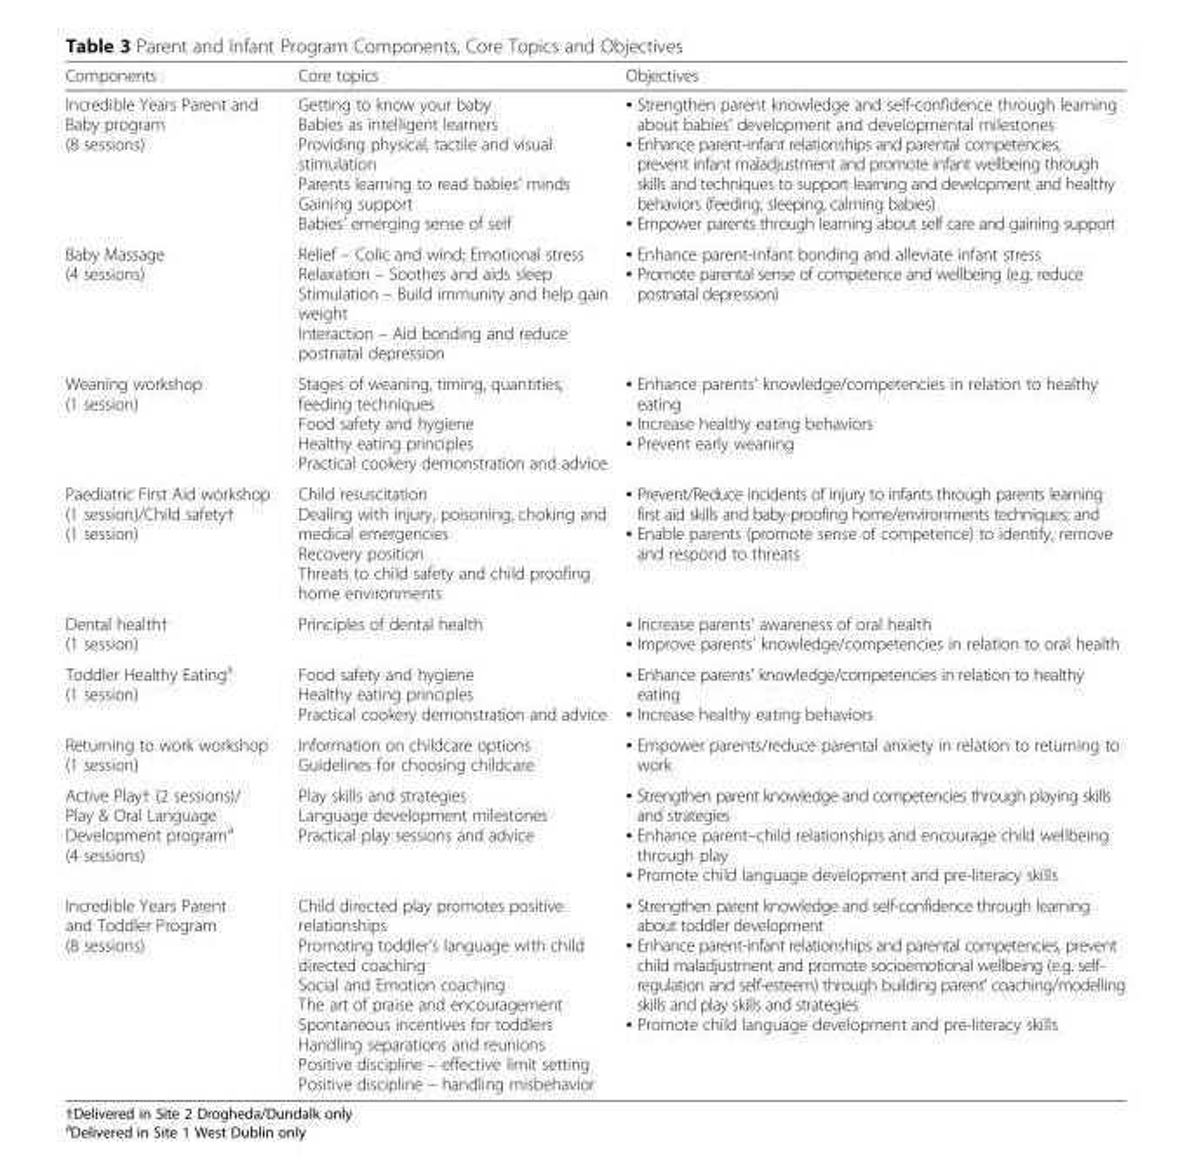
<table><thead><tr><td>Components</td><td>Core topics</td><td>Objectives</td></tr></thead><tbody><tr><td>Incredible Years Parent and Baby program (8 sessions)</td><td>Getting to know your baby Babies as intelligent learners Providing physical, tactile and visual stimulation Parents learning to read babies’ minds Gaining support Babies’ emerging sense of self</td><td>▪ Strengthen parent knowledge and self-confidence through learning about babies’ development and developmental milestones ▪ Enhance parent-infant relationships and parental competencies, prevent infant maladjustment and promote infant wellbeing through skills and techniques to support learning and development and healthy behaviors (feeding, sleeping, calming babies) ▪ Empower parents through learning about self care and gaining support</td></tr><tr><td>Baby Massage (4 sessions)</td><td>Relief – Colic and wind; Emotional stress Relaxation – Soothes and aids sleep Stimulation – Build immunity and help gain weight Interaction – Aid bonding and reduce postnatal depression</td><td>▪ Enhance parent-infant bonding and alleviate infant stress ▪ Promote parental sense of competence and wellbeing (e.g. reduce postnatal depression)</td></tr><tr><td>Weaning workshop (1 session)</td><td>Stages of weaning, timing, quantities, feeding techniques Food safety and hygiene Healthy eating principles Practical cookery demonstration and advice</td><td>▪ Enhance parents’ knowledge/competencies in relation to healthy eating ▪ Increase healthy eating behaviors ▪ Prevent early weaning</td></tr><tr><td>Paediatric First Aid workshop (1 session)/Child safety† (1 session)</td><td>Child resuscitation Dealing with injury, poisoning, choking and medical emergencies Recovery position Threats to child safety and child proofing home environments</td><td>▪ Prevent/Reduce incidents of injury to infants through parents learning first aid skills and baby-proofing home/environments techniques; and ▪ Enable parents (promote sense of competence) to identify, remove and respond to threats</td></tr><tr><td>Dental health† (1 session)</td><td>Principles of dental health</td><td>▪ Increase parents’ awareness of oral health ▪ Improve parents’ knowledge/competencies in relation to oral health</td></tr><tr><td>Toddler Healthy Eating<sup>a</sup> (1 session)</td><td>Food safety and hygiene Healthy eating principles Practical cookery demonstration and advice</td><td>▪ Enhance parents’ knowledge/competencies in relation to healthy eating ▪ Increase healthy eating behaviors</td></tr><tr><td>Returning to work workshop (1 session)</td><td>Information on childcare options Guidelines for choosing childcare</td><td>▪ Empower parents/reduce parental anxiety in relation to returning to work</td></tr><tr><td>Active Play† (2 sessions)/ Play &amp; Oral Language Development program<sup>a</sup> (4 sessions)</td><td>Play skills and strategies Language development milestones Practical play sessions and advice</td><td>▪ Strengthen parent knowledge and competencies through playing skills and strategies ▪ Enhance parent–child relationships and encourage child wellbeing through play ▪ Promote child language development and pre-literacy skills</td></tr><tr><td>Incredible Years Parent and Toddler Program (8 sessions)</td><td>Child directed play promotes positive relationships Promoting toddler’s language with child directed coaching Social and Emotion coaching The art of praise and encouragement Spontaneous incentives for toddlers Handling separations and reunions Positive discipline – effective limit setting Positive discipline – handling misbehavior</td><td>▪ Strengthen parent knowledge and self-confidence through learning about toddler development ▪ Enhance parent-infant relationships and parental competencies, prevent child maladjustment and promote socioemotional wellbeing (e.g. self- regulation and self-esteem) through building parent’ coaching/modelling skills and play skills and strategies ▪ Promote child language development and pre-literacy skills</td></tr></tbody></table>